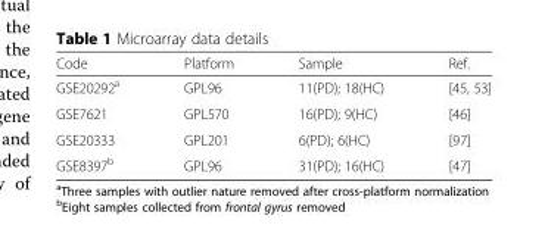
<table><thead><tr><td>Code</td><td>Platform</td><td>Sample</td><td>Ref.</td></tr></thead><tbody><tr><td>GSE20292<sup>a</sup></td><td>GPL96</td><td>11(PD); 18(HC)</td><td>[45, 53]</td></tr><tr><td>GSE7621</td><td>GPL570</td><td>16(PD); 9(HC)</td><td>[46]</td></tr><tr><td>GSE20333</td><td>GPL201</td><td>6(PD); 6(HC)</td><td>[97]</td></tr><tr><td>GSE8397<sup>b</sup></td><td>GPL96</td><td>31(PD); 16(HC)</td><td>[47]</td></tr></tbody></table>